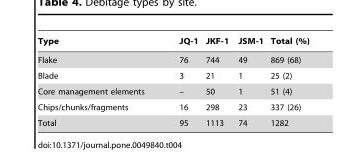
<table><thead><tr><td>Type</td><td>JQ-1</td><td>JKF-1</td><td>JSM-1</td><td>Total (%)</td></tr></thead><tbody><tr><td>Flake</td><td>76</td><td>744</td><td>49</td><td>869 (68)</td></tr><tr><td>Blade</td><td>3</td><td>21</td><td>1</td><td>25 (2)</td></tr><tr><td>Core management elements</td><td>–</td><td>50</td><td>1</td><td>51 (4)</td></tr><tr><td>Chips/chunks/fragments</td><td>16</td><td>298</td><td>23</td><td>337 (26)</td></tr><tr><td>Total</td><td>95</td><td>1113</td><td>74</td><td>1282</td></tr></tbody></table>